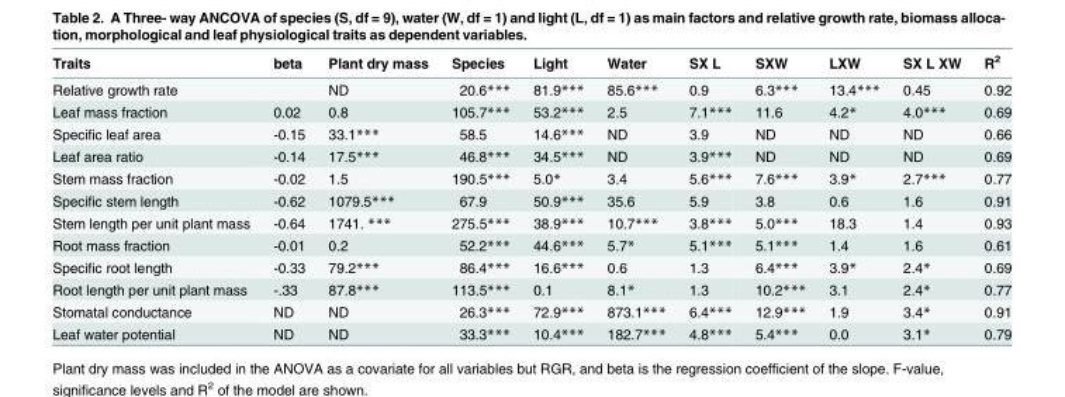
<table><thead><tr><td>Traits</td><td>beta</td><td>Plant dry mass</td><td>Species</td><td>Light</td><td>Water</td><td>SX L</td><td>SXW</td><td>LXW</td><td>SX L XW</td><td>R<sup>2</sup></td></tr></thead><tbody><tr><td>Relative growth rate</td><td></td><td>ND</td><td>20.6***</td><td>81.9***</td><td>85.6***</td><td>0.9</td><td>6.3***</td><td>13.4***</td><td>0.45</td><td>0.92</td></tr><tr><td>Leaf mass fraction</td><td>0.02</td><td>0.8</td><td>105.7***</td><td>53.2***</td><td>2.5</td><td>7.1***</td><td>11.6</td><td>4.2*</td><td>4.0***</td><td>0.69</td></tr><tr><td>Specific leaf area</td><td>-0.15</td><td>33.1***</td><td>58.5</td><td>14.6***</td><td>ND</td><td>3.9</td><td>ND</td><td>ND</td><td>ND</td><td>0.66</td></tr><tr><td>Leaf area ratio</td><td>-0.14</td><td>17.5***</td><td>46.8***</td><td>34.5***</td><td>ND</td><td>3.9***</td><td>ND</td><td>ND</td><td>ND</td><td>0.69</td></tr><tr><td>Stem mass fraction</td><td>-0.02</td><td>1.5</td><td>190.5***</td><td>5.0*</td><td>3.4</td><td>5.6***</td><td>7.6***</td><td>3.9*</td><td>2.7***</td><td>0.77</td></tr><tr><td>Specific stem length</td><td>-0.62</td><td>1079.5***</td><td>67.9</td><td>50.9***</td><td>35.6</td><td>5.9</td><td>3.8</td><td>0.6</td><td>1.6</td><td>0.91</td></tr><tr><td>Stem length per unit plant mass</td><td>-0.64</td><td>1741. ***</td><td>275.5***</td><td>38.9***</td><td>10.7***</td><td>3.8***</td><td>5.0***</td><td>18.3</td><td>1.4</td><td>0.93</td></tr><tr><td>Root mass fraction</td><td>-0.01</td><td>0.2</td><td>52.2***</td><td>44.6***</td><td>5.7*</td><td>5.1***</td><td>5.1***</td><td>1.4</td><td>1.6</td><td>0.61</td></tr><tr><td>Specific root length</td><td>-0.33</td><td>79.2***</td><td>86.4***</td><td>16.6***</td><td>0.6</td><td>1.3</td><td>6.4***</td><td>3.9*</td><td>2.4*</td><td>0.69</td></tr><tr><td>Root length per unit plant mass</td><td>-.33</td><td>87.8***</td><td>113.5***</td><td>0.1</td><td>8.1*</td><td>1.3</td><td>10.2***</td><td>3.1</td><td>2.4*</td><td>0.77</td></tr><tr><td>Stomatal conductance</td><td>ND</td><td>ND</td><td>26.3***</td><td>72.9***</td><td>873.1***</td><td>6.4***</td><td>12.9***</td><td>1.9</td><td>3.4*</td><td>0.91</td></tr><tr><td>Leaf water potential</td><td>ND</td><td>ND</td><td>33.3***</td><td>10.4***</td><td>182.7***</td><td>4.8***</td><td>5.4***</td><td>0.0</td><td>3.1*</td><td>0.79</td></tr></tbody></table>